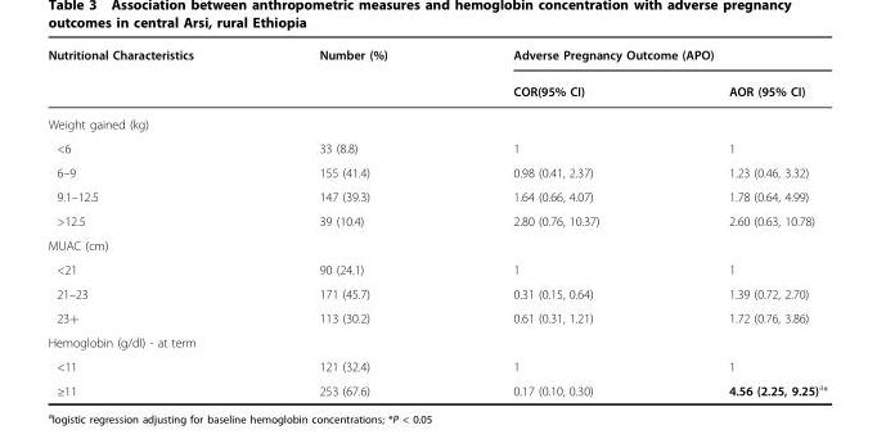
<table><thead><tr><td rowspan="2">Nutritional Characteristics</td><td rowspan="2">Number (%)</td><td colspan="2">Adverse Pregnancy Outcome (APO)</td></tr><tr><td>COR(95% CI)</td><td>AOR (95% CI)</td></tr></thead><tbody><tr><td colspan="4">Weight gained (kg)</td></tr><tr><td>&lt;6</td><td>33 (8.8)</td><td>1</td><td>1</td></tr><tr><td>6–9</td><td>155 (41.4)</td><td>0.98 (0.41, 2.37)</td><td>1.23 (0.46, 3.32)</td></tr><tr><td>9.1–12.5</td><td>147 (39.3)</td><td>1.64 (0.66, 4.07)</td><td>1.78 (0.64, 4.99)</td></tr><tr><td>&gt;12.5</td><td>39 (10.4)</td><td>2.80 (0.76, 10.37)</td><td>2.60 (0.63, 10.78)</td></tr><tr><td colspan="4">MUAC (cm)</td></tr><tr><td>&lt;21</td><td>90 (24.1)</td><td>1</td><td>1</td></tr><tr><td>21–23</td><td>171 (45.7)</td><td>0.31 (0.15, 0.64)</td><td>1.39 (0.72, 2.70)</td></tr><tr><td>23+</td><td>113 (30.2)</td><td>0.61 (0.31, 1.21)</td><td>1.72 (0.76, 3.86)</td></tr><tr><td colspan="4">Hemoglobin (g/dl) - at term</td></tr><tr><td>&lt;11</td><td>121 (32.4)</td><td>1</td><td>1</td></tr><tr><td>≥11</td><td>253 (67.6)</td><td>0.17 (0.10, 0.30)</td><td>4.56 (2.25, 9.25)<sup>a</sup>*</td></tr></tbody></table>